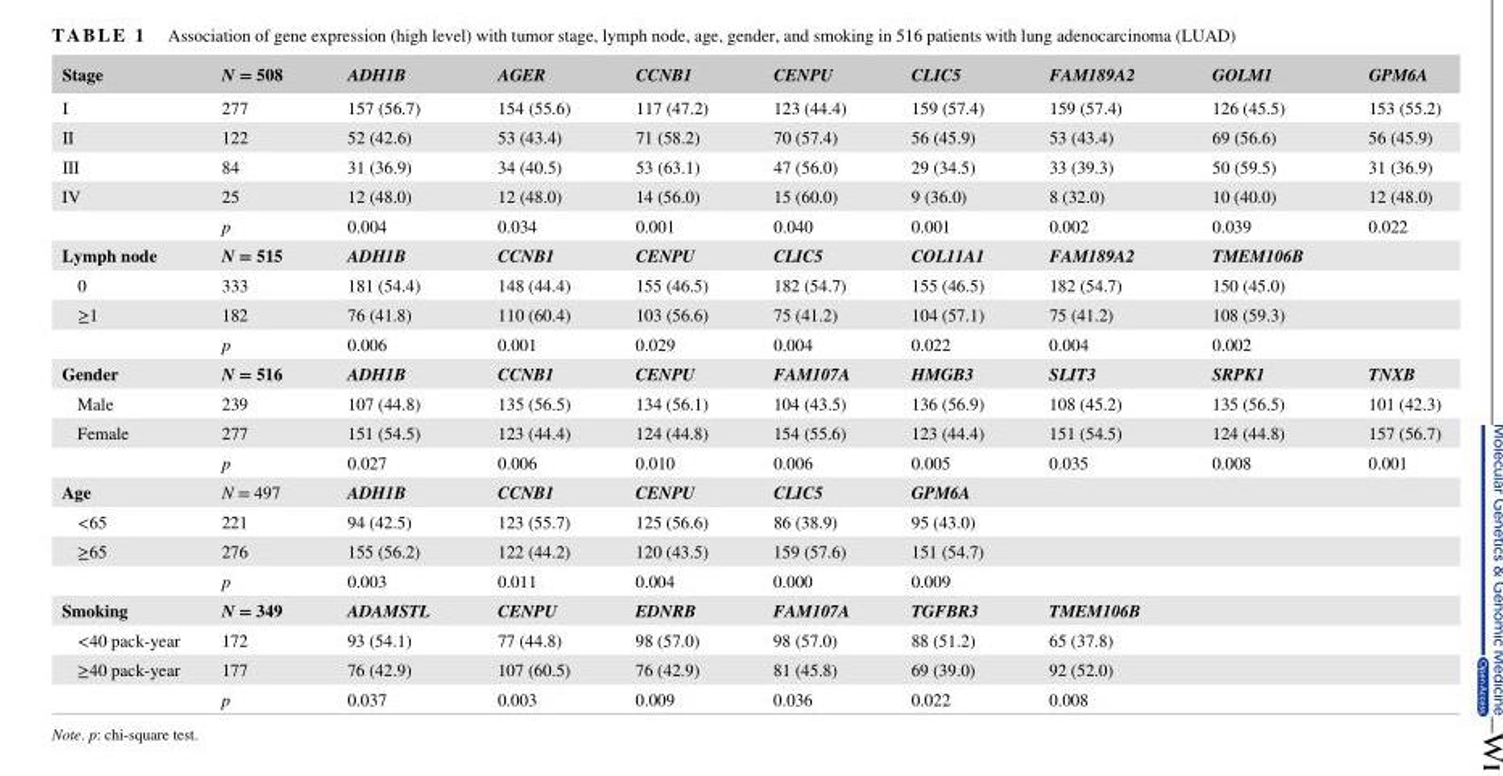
<table><thead><tr><td>Stage</td><td>N = 508</td><td>ADH1B</td><td>AGER</td><td>CCNB1</td><td>CENPU</td><td>CLIC5</td><td>FAM189A2</td><td>GOLM1</td><td>GPM6A</td></tr></thead><tbody><tr><td>I</td><td>277</td><td>157 (56.7)</td><td>154 (55.6)</td><td>117 (47.2)</td><td>123 (44.4)</td><td>159 (57.4)</td><td>159 (57.4)</td><td>126 (45.5)</td><td>153 (55.2)</td></tr><tr><td>II</td><td>122</td><td>52 (42.6)</td><td>53 (43.4)</td><td>71 (58.2)</td><td>70 (57.4)</td><td>56 (45.9)</td><td>53 (43.4)</td><td>69 (56.6)</td><td>56 (45.9)</td></tr><tr><td>III</td><td>84</td><td>31 (36.9)</td><td>34 (40.5)</td><td>53 (63.1)</td><td>47 (56.0)</td><td>29 (34.5)</td><td>33 (39.3)</td><td>50 (59.5)</td><td>31 (36.9)</td></tr><tr><td rowspan="2">IV</td><td>25</td><td>12 (48.0)</td><td>12 (48.0)</td><td>14 (56.0)</td><td>15 (60.0)</td><td>9 (36.0)</td><td>8 (32.0)</td><td>10 (40.0)</td><td>12 (48.0)</td></tr><tr><td>p</td><td>0.004</td><td>0.034</td><td>0.001</td><td>0.040</td><td>0.001</td><td>0.002</td><td>0.039</td><td>0.022</td></tr><tr><td>Lymph node</td><td>N = 515</td><td>ADH1B</td><td>CCNB1</td><td>CENPU</td><td>CLIC5</td><td>COL11A1</td><td>FAM189A2</td><td>TMEM106B</td><td></td></tr><tr><td>0</td><td>333</td><td>181 (54.4)</td><td>148 (44.4)</td><td>155 (46.5)</td><td>182 (54.7)</td><td>155 (46.5)</td><td>182 (54.7)</td><td>150 (45.0)</td><td></td></tr><tr><td rowspan="2">≥1</td><td>182</td><td>76 (41.8)</td><td>110 (60.4)</td><td>103 (56.6)</td><td>75 (41.2)</td><td>104 (57.1)</td><td>75 (41.2)</td><td>108 (59.3)</td><td></td></tr><tr><td>p</td><td>0.006</td><td>0.001</td><td>0.029</td><td>0.004</td><td>0.022</td><td>0.004</td><td>0.002</td><td></td></tr><tr><td>Gender</td><td>N = 516</td><td>ADH1B</td><td>CCNB1</td><td>CENPU</td><td>FAM107A</td><td>HMGB3</td><td>SLIT3</td><td>SRPK1</td><td>TNXB</td></tr><tr><td>Male</td><td>239</td><td>107 (44.8)</td><td>135 (56.5)</td><td>134 (56.1)</td><td>104 (43.5)</td><td>136 (56.9)</td><td>108 (45.2)</td><td>135 (56.5)</td><td>101 (42.3)</td></tr><tr><td rowspan="2">Female</td><td>277</td><td>151 (54.5)</td><td>123 (44.4)</td><td>124 (44.8)</td><td>154 (55.6)</td><td>123 (44.4)</td><td>151 (54.5)</td><td>124 (44.8)</td><td>157 (56.7)</td></tr><tr><td>p</td><td>0.027</td><td>0.006</td><td>0.010</td><td>0.006</td><td>0.005</td><td>0.035</td><td>0.008</td><td>0.001</td></tr><tr><td>Age</td><td>N = 497</td><td>ADH1B</td><td>CCNB1</td><td>CENPU</td><td>CLIC5</td><td>GPM6A</td><td></td><td></td><td></td></tr><tr><td>&lt;65</td><td>221</td><td>94 (42.5)</td><td>123 (55.7)</td><td>125 (56.6)</td><td>86 (38.9)</td><td>95 (43.0)</td><td></td><td></td><td></td></tr><tr><td rowspan="2">≥65</td><td>276</td><td>155 (56.2)</td><td>122 (44.2)</td><td>120 (43.5)</td><td>159 (57.6)</td><td>151 (54.7)</td><td></td><td></td><td></td></tr><tr><td>p</td><td>0.003</td><td>0.011</td><td>0.004</td><td>0.000</td><td>0.009</td><td></td><td></td><td></td></tr><tr><td>Smoking</td><td>N = 349</td><td>ADAMSTL</td><td>CENPU</td><td>EDNRB</td><td>FAM107A</td><td>TGFBR3</td><td>TMEM106B</td><td></td><td></td></tr><tr><td>&lt;40 pack‐year</td><td>172</td><td>93 (54.1)</td><td>77 (44.8)</td><td>98 (57.0)</td><td>98 (57.0)</td><td>88 (51.2)</td><td>65 (37.8)</td><td></td><td></td></tr><tr><td rowspan="2">≥40 pack‐year</td><td>177</td><td>76 (42.9)</td><td>107 (60.5)</td><td>76 (42.9)</td><td>81 (45.8)</td><td>69 (39.0)</td><td>92 (52.0)</td><td></td><td></td></tr><tr><td>p</td><td>0.037</td><td>0.003</td><td>0.009</td><td>0.036</td><td>0.022</td><td>0.008</td><td></td><td></td></tr></tbody></table>